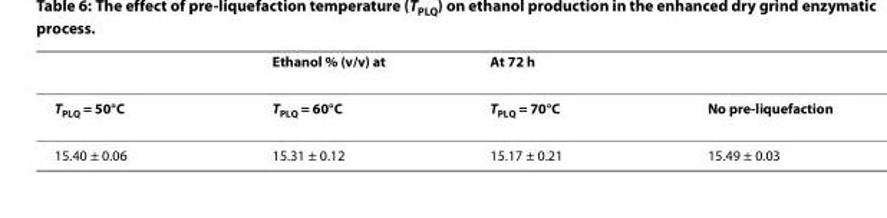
<table><thead><tr><td></td><td>Ethanol % (v/v) at</td><td>At 72 h</td><td></td></tr></thead><tbody><tr><td>T<sub>PLQ</sub> = 50°C</td><td>T<sub>PLQ</sub> = 60°C</td><td>T<sub>PLQ</sub> = 70°C</td><td>No pre-liquefaction</td></tr><tr><td>15.40 ± 0.06</td><td>15.31 ± 0.12</td><td>15.17 ± 0.21</td><td>15.49 ± 0.03</td></tr></tbody></table>